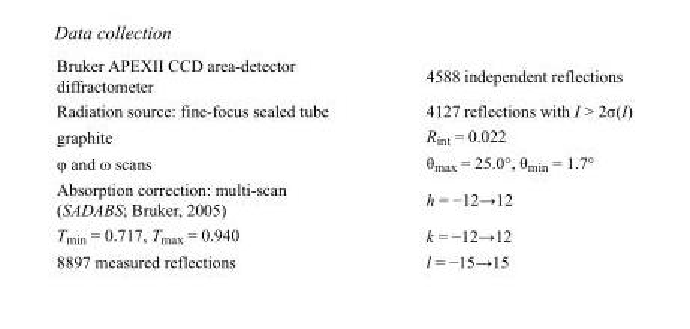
<table><tbody><tr><td>Bruker APEXII CCD area-detector diffractometer</td><td>4588 independent reflections</td></tr><tr><td>Radiation source: fine-focus sealed tube</td><td>4127 reflections with I &gt; 2σ(I)</td></tr><tr><td>graphite</td><td>R<sub>int</sub> = 0.022</td></tr><tr><td>φ and ω scans</td><td>θ<sub>max</sub> = 25.0°, θ<sub>min</sub> = 1.7°</td></tr><tr><td>Absorption correction: multi-scan (SADABS; Bruker, 2005)</td><td>h = −12→12</td></tr><tr><td>T<sub>min</sub> = 0.717, T<sub>max</sub> = 0.940</td><td>k = −12→12</td></tr><tr><td>8897 measured reflections</td><td>l = −15→15</td></tr></tbody></table>